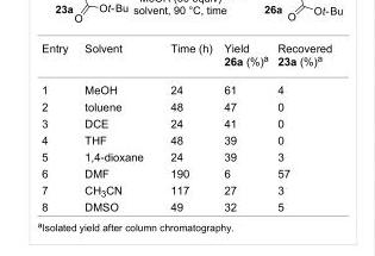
<table><tbody><tr><td>Entry</td><td>Solvent</td><td>Time (h)</td><td>Yield 26a (%)<sup>a</sup></td><td>Recovered 23a (%)<sup>a</sup></td></tr><tr><td>1</td><td>MeOH</td><td>24</td><td>61</td><td>4</td></tr><tr><td>2</td><td>toluene</td><td>48</td><td>47</td><td>0</td></tr><tr><td>3</td><td>DCE</td><td>24</td><td>41</td><td>0</td></tr><tr><td>4</td><td>THF</td><td>48</td><td>39</td><td>0</td></tr><tr><td>5</td><td>1,4-dioxane</td><td>24</td><td>39</td><td>3</td></tr><tr><td>6</td><td>DMF</td><td>190</td><td>6</td><td>57</td></tr><tr><td>7</td><td>CH<sub>3</sub>CN</td><td>117</td><td>27</td><td>3</td></tr><tr><td>8</td><td>DMSO</td><td>49</td><td>32</td><td>5</td></tr></tbody></table>